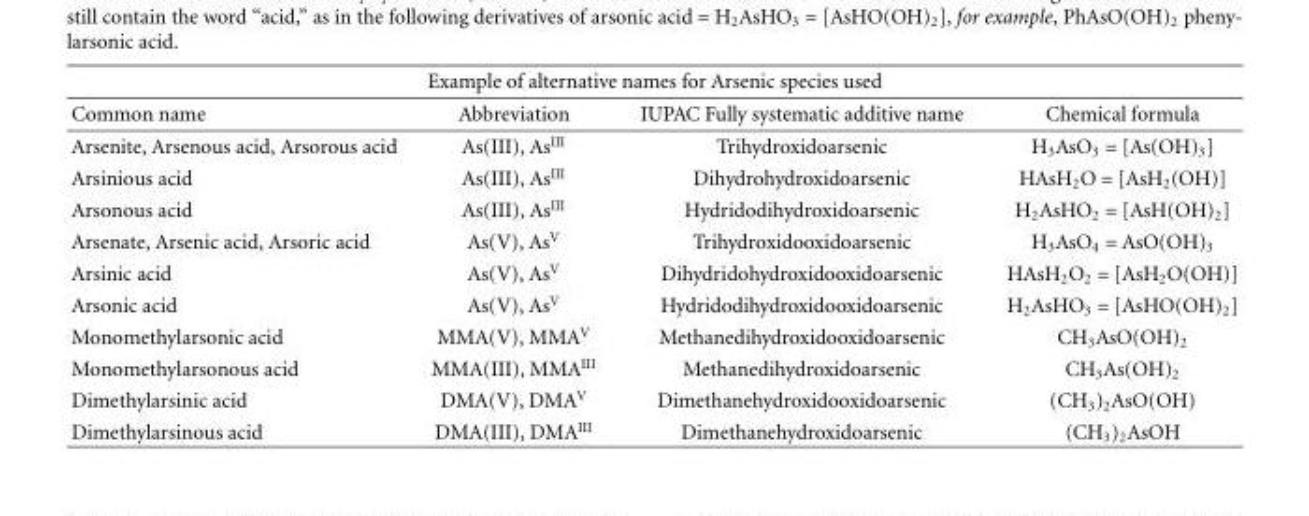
<table><thead><tr><td colspan="4">Example of alternative names for Arsenic species used</td></tr><tr><td>Common name</td><td>Abbreviation</td><td>IUPAC Fully systematic additive name</td><td>Chemical formula</td></tr></thead><tbody><tr><td>Arsenite, Arsenous acid, Arsorous acid</td><td>As(III), As<sup>III</sup></td><td>Trihydroxidoarsenic</td><td>H<sub>3</sub>AsO<sub>3</sub> = [As(OH)<sub>3</sub>]</td></tr><tr><td>Arsinious acid</td><td>As(III), As<sup>III</sup></td><td>Dihydrohydroxidoarsenic</td><td>HAsH<sub>2</sub>O = [AsH<sub>2</sub>(OH)]</td></tr><tr><td>Arsonous acid</td><td>As(III), As<sup>III</sup></td><td>Hydridodihydroxidoarsenic</td><td>H<sub>2</sub>AsHO<sub>2</sub> = [AsH(OH)<sub>2</sub>]</td></tr><tr><td>Arsenate, Arsenic acid, Arsoric acid</td><td>As(V), As<sup>V</sup></td><td>Trihydroxidooxidoarsenic</td><td>H<sub>3</sub>AsO<sub>4</sub> = AsO(OH)<sub>3</sub></td></tr><tr><td>Arsinic acid</td><td>As(V), As<sup>V</sup></td><td>Dihydridohydroxidooxidoarsenic</td><td>HAsH<sub>2</sub>O<sub>2</sub> = [AsH<sub>2</sub>O(OH)]</td></tr><tr><td>Arsonic acid</td><td>As(V), As<sup>V</sup></td><td>Hydridodihydroxidooxidoarsenic</td><td>H<sub>2</sub>AsHO<sub>3</sub> = [AsHO(OH)<sub>2</sub>]</td></tr><tr><td>Monomethylarsonic acid</td><td>MMA(V), MMA<sup>V</sup></td><td>Methanedihydroxidooxidoarsenic</td><td>CH<sub>3</sub>AsO(OH)<sub>2</sub></td></tr><tr><td>Monomethylarsonous acid</td><td>MMA(III), MMA<sup>III</sup></td><td>Methanedihydroxidoarsenic</td><td>CH<sub>3</sub>As(OH)<sub>2</sub></td></tr><tr><td>Dimethylarsinic acid</td><td>DMA(V), DMA<sup>V</sup></td><td>Dimethanehydroxidooxidoarsenic</td><td>(CH<sub>3</sub>)<sub>2</sub>AsO(OH)</td></tr><tr><td>Dimethylarsinous acid</td><td>DMA(III), DMA<sup>III</sup></td><td>Dimethanehydroxidoarsenic</td><td>(CH<sub>3</sub>)<sub>2</sub>AsOH</td></tr></tbody></table>